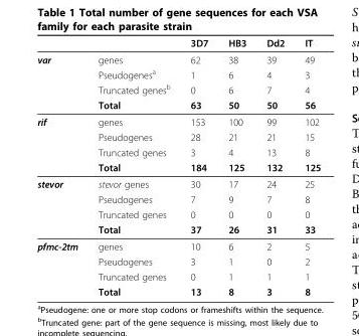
<table><thead><tr><td></td><td></td><td>3D7</td><td>HB3</td><td>Dd2</td><td>IT</td></tr></thead><tbody><tr><td rowspan="4">var</td><td>genes</td><td>62</td><td>38</td><td>39</td><td>49</td></tr><tr><td>Pseudogenes<sup>a</sup></td><td>1</td><td>6</td><td>4</td><td>3</td></tr><tr><td>Truncated genes<sup>b</sup></td><td>0</td><td>6</td><td>7</td><td>4</td></tr><tr><td>Total</td><td>63</td><td>50</td><td>50</td><td>56</td></tr><tr><td rowspan="4">rif</td><td>genes</td><td>153</td><td>100</td><td>99</td><td>102</td></tr><tr><td>Pseudogenes</td><td>28</td><td>21</td><td>21</td><td>15</td></tr><tr><td>Truncated genes</td><td>3</td><td>4</td><td>13</td><td>8</td></tr><tr><td>Total</td><td>184</td><td>125</td><td>132</td><td>125</td></tr><tr><td rowspan="4">stevor</td><td>stevor genes</td><td>30</td><td>17</td><td>24</td><td>25</td></tr><tr><td>Pseudogenes</td><td>7</td><td>9</td><td>7</td><td>8</td></tr><tr><td>Truncated genes</td><td>0</td><td>0</td><td>0</td><td>0</td></tr><tr><td>Total</td><td>37</td><td>26</td><td>31</td><td>33</td></tr><tr><td rowspan="4">pfmc-2tm</td><td>genes</td><td>10</td><td>6</td><td>2</td><td>5</td></tr><tr><td>Pseudogenes</td><td>3</td><td>1</td><td>0</td><td>2</td></tr><tr><td>Truncated genes</td><td>0</td><td>1</td><td>1</td><td>1</td></tr><tr><td>Total</td><td>13</td><td>8</td><td>3</td><td>8</td></tr></tbody></table>